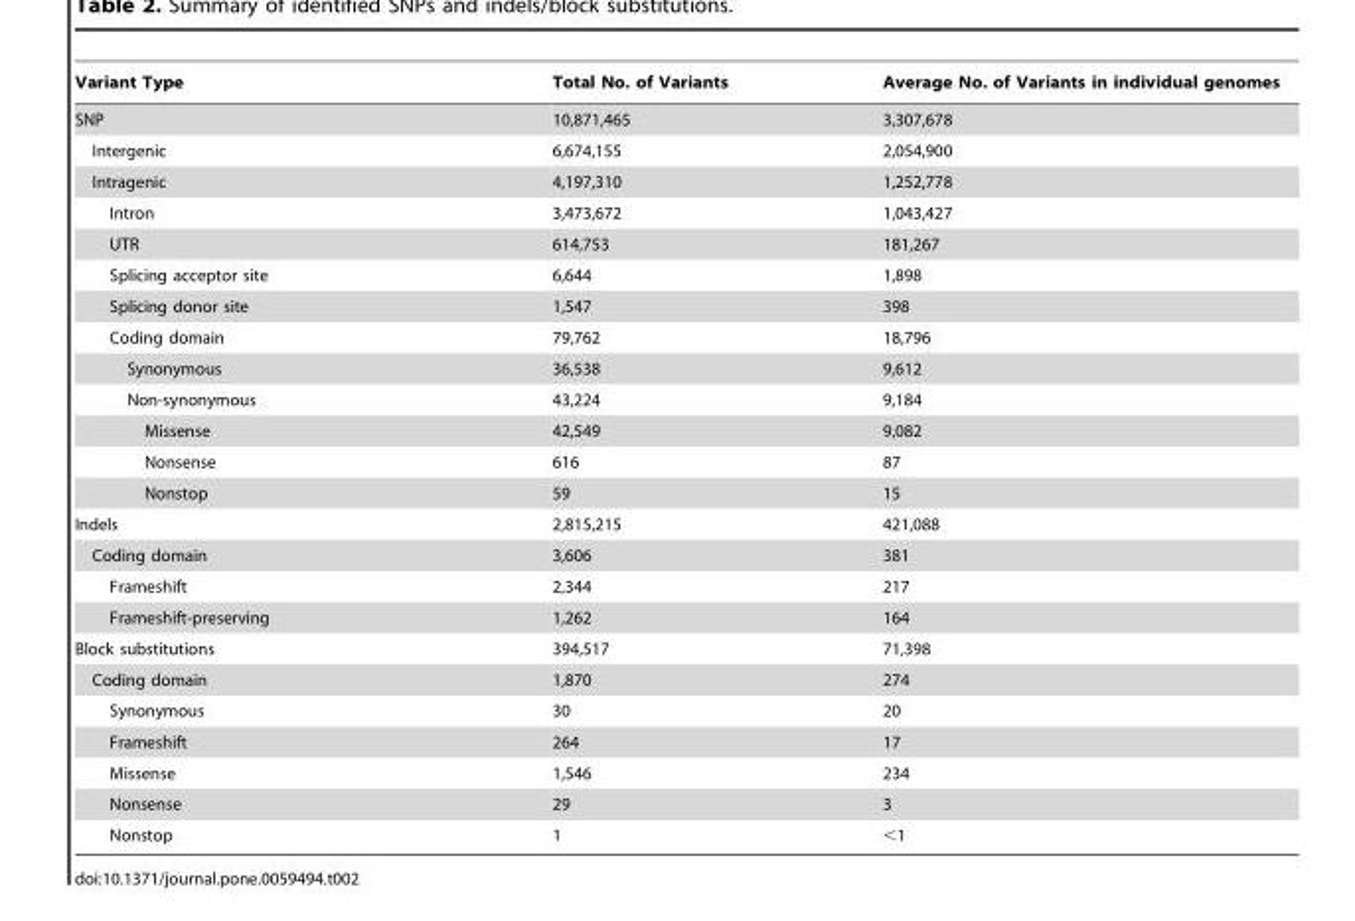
<table><thead><tr><td>Variant Type</td><td>Total No. of Variants</td><td>Average No. of Variants in individual genomes</td></tr></thead><tbody><tr><td>SNP</td><td>10,871,465</td><td>3,307,678</td></tr><tr><td>Intergenic</td><td>6,674,155</td><td>2,054,900</td></tr><tr><td>Intragenic</td><td>4,197,310</td><td>1,252,778</td></tr><tr><td>Intron</td><td>3,473,672</td><td>1,043,427</td></tr><tr><td>UTR</td><td>614,753</td><td>181,267</td></tr><tr><td>Splicing acceptor site</td><td>6,644</td><td>1,898</td></tr><tr><td>Splicing donor site</td><td>1,547</td><td>398</td></tr><tr><td>Coding domain</td><td>79,762</td><td>18,796</td></tr><tr><td>Synonymous</td><td>36,538</td><td>9,612</td></tr><tr><td>Non-synonymous</td><td>43,224</td><td>9,184</td></tr><tr><td>Missense</td><td>42,549</td><td>9,082</td></tr><tr><td>Nonsense</td><td>616</td><td>87</td></tr><tr><td>Nonstop</td><td>59</td><td>15</td></tr><tr><td>Indels</td><td>2,815,215</td><td>421,088</td></tr><tr><td>Coding domain</td><td>3,606</td><td>381</td></tr><tr><td>Frameshift</td><td>2,344</td><td>217</td></tr><tr><td>Frameshift-preserving</td><td>1,262</td><td>164</td></tr><tr><td>Block substitutions</td><td>394,517</td><td>71,398</td></tr><tr><td>Coding domain</td><td>1,870</td><td>274</td></tr><tr><td>Synonymous</td><td>30</td><td>20</td></tr><tr><td>Frameshift</td><td>264</td><td>17</td></tr><tr><td>Missense</td><td>1,546</td><td>234</td></tr><tr><td>Nonsense</td><td>29</td><td>3</td></tr><tr><td>Nonstop</td><td>1</td><td>&lt;1</td></tr></tbody></table>